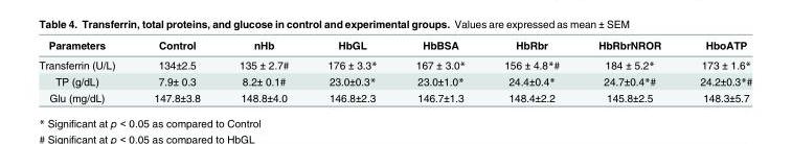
<table><thead><tr><td>Parameters</td><td>Control</td><td>nHb</td><td>HbGL</td><td>HbBSA</td><td>HbRbr</td><td>HbRbrNROR</td><td>HboATP</td></tr></thead><tbody><tr><td>Transferrin (U/L)</td><td>134±2.5</td><td>135 ± 2.7#</td><td>176 ± 3.3*</td><td>167 ± 3.0*</td><td>156 ± 4.8*#</td><td>184 ± 5.2*</td><td>173 ± 1.6*</td></tr><tr><td>TP (g/dL)</td><td>7.9± 0.3</td><td>8.2± 0.1#</td><td>23.0±0.3*</td><td>23.0±1.0*</td><td>24.4±0.4*</td><td>24.7±0.4*#</td><td>24.2±0.3*#</td></tr><tr><td>Glu (mg/dL)</td><td>147.8±3.8</td><td>148.8±4.0</td><td>146.8±2.3</td><td>146.7±1.3</td><td>148.4±2.2</td><td>145.8±2.5</td><td>148.3±5.7</td></tr></tbody></table>